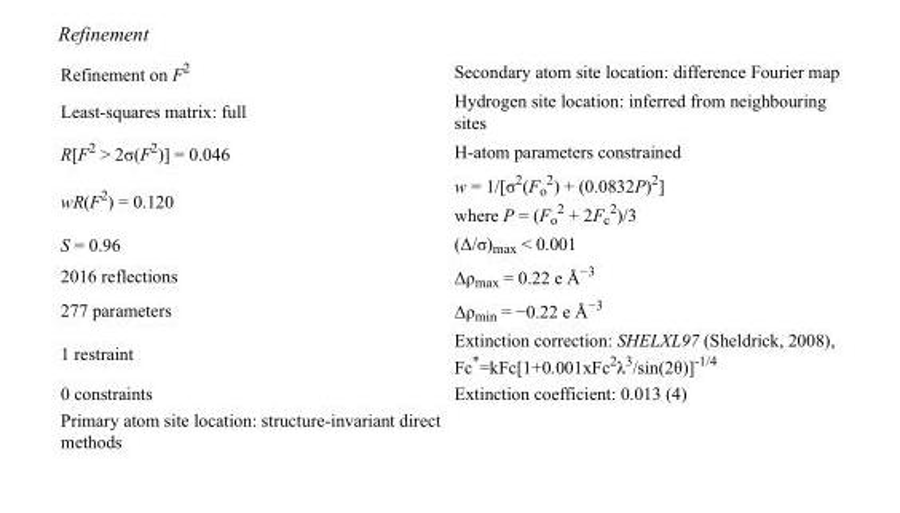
<table><tbody><tr><td>Refinement on F<sup>2</sup></td><td>Secondary atom site location: difference Fourier map</td></tr><tr><td>Least-squares matrix: full</td><td>Hydrogen site location: inferred from neighbouring sites</td></tr><tr><td>R[F<sup>2</sup> &gt; 2σ(F<sup>2</sup>)] = 0.046</td><td>H-atom parameters constrained</td></tr><tr><td>wR(F<sup>2</sup>) = 0.120</td><td>w = 1/[σ<sup>2</sup>(F<sub>o</sub> <sup>2</sup>) + (0.0832P)<sup>2</sup>] where P = (F<sub>o</sub> <sup>2</sup> + 2F<sub>c</sub> <sup>2</sup>)/3</td></tr><tr><td>S = 0.96</td><td>(Δ/σ)<sub>max</sub> &lt; 0.001</td></tr><tr><td>2016 reflections</td><td>Δρ<sub>max</sub> = 0.22 e Å<sup>−3</sup></td></tr><tr><td>277 parameters</td><td>Δρ<sub>min</sub> = −0.22 e Å<sup>−3</sup></td></tr><tr><td>1 restraint</td><td>Extinction correction: SHELXL97 (Sheldrick, 2008), Fc*=kFc[1+0.001xFc<sup>2</sup>λ<sup>3</sup>/sin(2θ)]<sup>-1/4</sup></td></tr><tr><td>0 constraints</td><td>Extinction coefficient: 0.013 (4)</td></tr><tr><td>Primary atom site location: structure-invariant direct methods</td><td></td></tr></tbody></table>